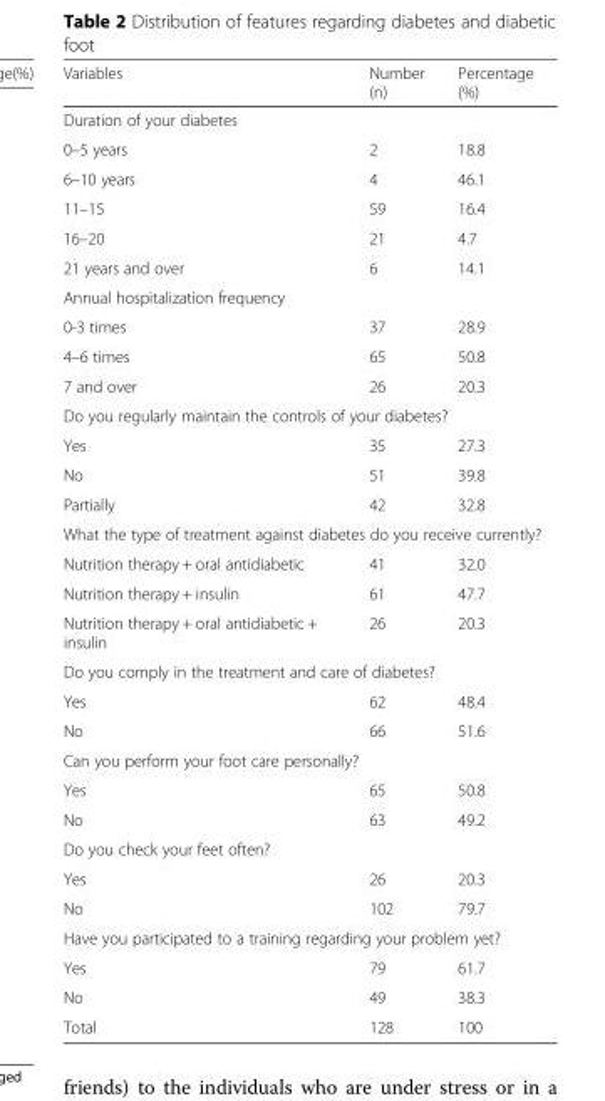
<table><thead><tr><td>Variables</td><td>Number (n)</td><td>Percentage (%)</td></tr></thead><tbody><tr><td colspan="3">Duration of your diabetes</td></tr><tr><td>0–5 years</td><td>2</td><td>18.8</td></tr><tr><td>6–10 years</td><td>4</td><td>46.1</td></tr><tr><td>11–15</td><td>59</td><td>16.4</td></tr><tr><td>16–20</td><td>21</td><td>4.7</td></tr><tr><td>21 years and over</td><td>6</td><td>14.1</td></tr><tr><td colspan="3">Annual hospitalization frequency</td></tr><tr><td>0-3 times</td><td>37</td><td>28.9</td></tr><tr><td>4–6 times</td><td>65</td><td>50.8</td></tr><tr><td>7 and over</td><td>26</td><td>20.3</td></tr><tr><td colspan="3">Do you regularly maintain the controls of your diabetes?</td></tr><tr><td>Yes</td><td>35</td><td>27.3</td></tr><tr><td>No</td><td>51</td><td>39.8</td></tr><tr><td>Partially</td><td>42</td><td>32.8</td></tr><tr><td colspan="3">What the type of treatment against diabetes do you receive currently?</td></tr><tr><td>Nutrition therapy + oral antidiabetic</td><td>41</td><td>32.0</td></tr><tr><td>Nutrition therapy + insulin</td><td>61</td><td>47.7</td></tr><tr><td>Nutrition therapy + oral antidiabetic + insulin</td><td>26</td><td>20.3</td></tr><tr><td colspan="3">Do you comply in the treatment and care of diabetes?</td></tr><tr><td>Yes</td><td>62</td><td>48.4</td></tr><tr><td>No</td><td>66</td><td>51.6</td></tr><tr><td colspan="3">Can you perform your foot care personally?</td></tr><tr><td>Yes</td><td>65</td><td>50.8</td></tr><tr><td>No</td><td>63</td><td>49.2</td></tr><tr><td colspan="3">Do you check your feet often?</td></tr><tr><td>Yes</td><td>26</td><td>20.3</td></tr><tr><td>No</td><td>102</td><td>79.7</td></tr><tr><td colspan="3">Have you participated to a training regarding your problem yet?</td></tr><tr><td>Yes</td><td>79</td><td>61.7</td></tr><tr><td>No</td><td>49</td><td>38.3</td></tr><tr><td>Total</td><td>128</td><td>100</td></tr></tbody></table>